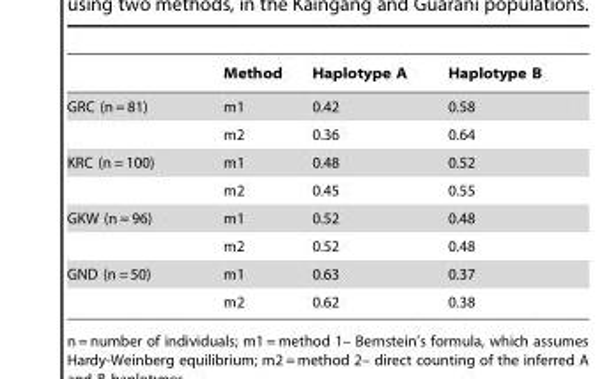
<table><thead><tr><td></td><td>Method</td><td>Haplotype A</td><td>Haplotype B</td></tr></thead><tbody><tr><td rowspan="2">GRC (n = 81)</td><td>m1</td><td>0.42</td><td>0.58</td></tr><tr><td>m2</td><td>0.36</td><td>0.64</td></tr><tr><td rowspan="2">KRC (n = 100)</td><td>m1</td><td>0.48</td><td>0.52</td></tr><tr><td>m2</td><td>0.45</td><td>0.55</td></tr><tr><td rowspan="2">GKW (n = 96)</td><td>m1</td><td>0.52</td><td>0.48</td></tr><tr><td>m2</td><td>0.52</td><td>0.48</td></tr><tr><td rowspan="2">GND (n = 50)</td><td>m1</td><td>0.63</td><td>0.37</td></tr><tr><td>m2</td><td>0.62</td><td>0.38</td></tr></tbody></table>